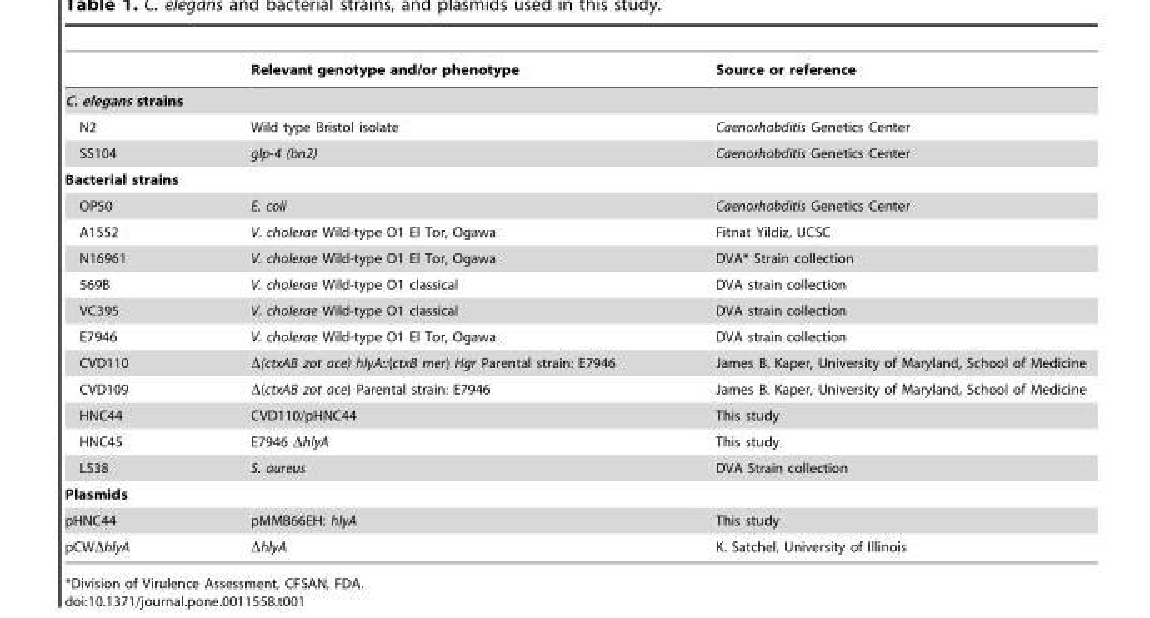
<table><thead><tr><td></td><td>Relevant genotype and/or phenotype</td><td>Source or reference</td></tr></thead><tbody><tr><td colspan="3">C. elegans strains</td></tr><tr><td>N2</td><td>Wild type Bristol isolate</td><td>Caenorhabditis Genetics Center</td></tr><tr><td>SS104</td><td>glp-4 (bn2)</td><td>Caenorhabditis Genetics Center</td></tr><tr><td colspan="3">Bacterial strains</td></tr><tr><td>OP50</td><td>E. coli</td><td>Caenorhabditis Genetics Center</td></tr><tr><td>A1552</td><td>V. cholerae Wild-type O1 El Tor, Ogawa</td><td>Fitnat Yildiz, UCSC</td></tr><tr><td>N16961</td><td>V. cholerae Wild-type O1 El Tor, Ogawa</td><td>DVA* Strain collection</td></tr><tr><td>569B</td><td>V. cholerae Wild-type O1 classical</td><td>DVA strain collection</td></tr><tr><td>VC395</td><td>V. cholerae Wild-type O1 classical</td><td>DVA strain collection</td></tr><tr><td>E7946</td><td>V. cholerae Wild-type O1 El Tor, Ogawa</td><td>DVA strain collection</td></tr><tr><td>CVD110</td><td>Δ(ctxAB zot ace) hlyA::(ctxB mer) Hgr Parental strain: E7946</td><td>James B. Kaper, University of Maryland, School of Medicine</td></tr><tr><td>CVD109</td><td>Δ(ctxAB zot ace) Parental strain: E7946</td><td>James B. Kaper, University of Maryland, School of Medicine</td></tr><tr><td>HNC44</td><td>CVD110/pHNC44</td><td>This study</td></tr><tr><td>HNC45</td><td>E7946 ΔhlyA</td><td>This study</td></tr><tr><td>LS38</td><td>S. aureus</td><td>DVA Strain collection</td></tr><tr><td colspan="3">Plasmids</td></tr><tr><td>pHNC44</td><td>pMMB66EH: hlyA</td><td>This study</td></tr><tr><td>pCWΔhlyA</td><td>ΔhlyA</td><td>K. Satchel, University of Illinois</td></tr></tbody></table>